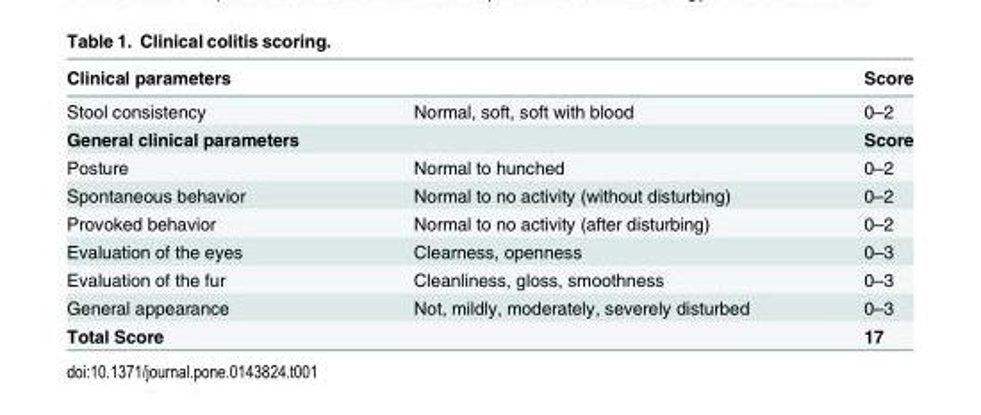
<table><thead><tr><td>Clinical parameters</td><td></td><td>Score</td></tr></thead><tbody><tr><td>Stool consistency</td><td>Normal, soft, soft with blood</td><td>0–2</td></tr><tr><td>General clinical parameters</td><td></td><td>Score</td></tr><tr><td>Posture</td><td>Normal to hunched</td><td>0–2</td></tr><tr><td>Spontaneous behavior</td><td>Normal to no activity (without disturbing)</td><td>0–2</td></tr><tr><td>Provoked behavior</td><td>Normal to no activity (after disturbing)</td><td>0–2</td></tr><tr><td>Evaluation of the eyes</td><td>Clearness, openness</td><td>0–3</td></tr><tr><td>Evaluation of the fur</td><td>Cleanliness, gloss, smoothness</td><td>0–3</td></tr><tr><td>General appearance</td><td>Not, mildly, moderately, severely disturbed</td><td>0–3</td></tr><tr><td>Total Score</td><td></td><td>17</td></tr></tbody></table>